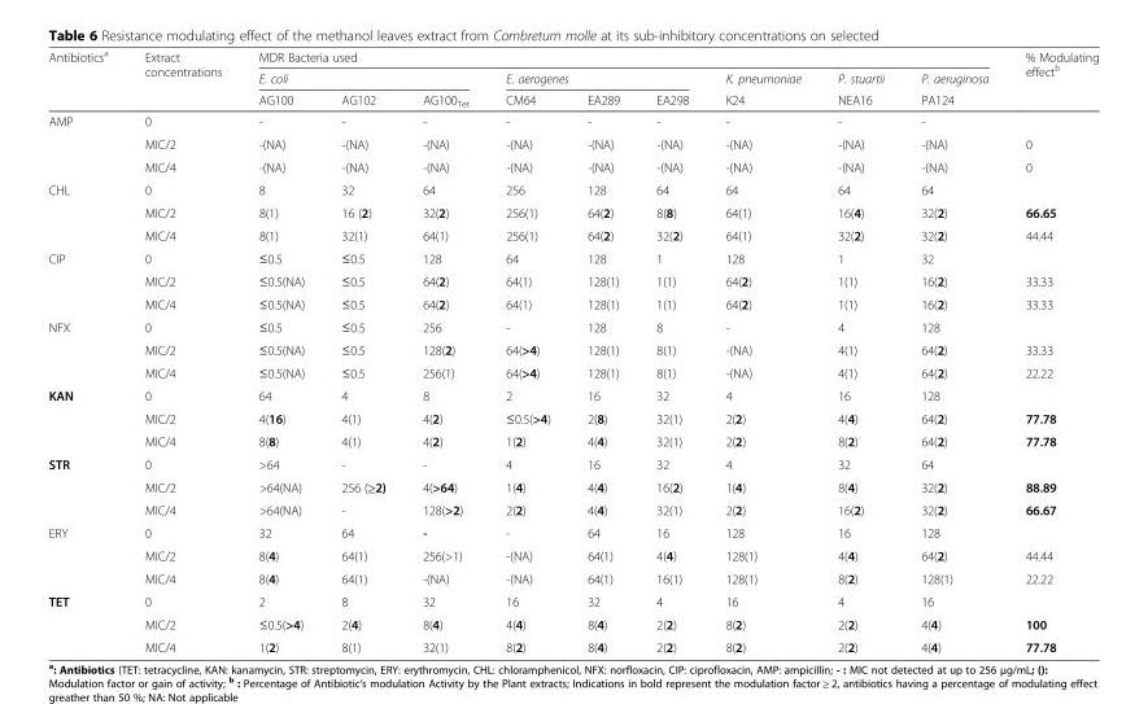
<table><thead><tr><td rowspan="3">Antibiotics<sup>a</sup></td><td rowspan="3">Extract concentrations</td><td colspan="9">MDR Bacteria used</td><td rowspan="3">% Modulating effect<sup>b</sup></td></tr><tr><td colspan="3">E. coli</td><td colspan="3">E. aerogenes</td><td rowspan="2">K. pneumoniae K24</td><td rowspan="2">P. stuartii NEA16</td><td rowspan="2">P. aeruginosa PA124</td></tr><tr><td>AG100</td><td>AG102</td><td>AG100<sub>Tet</sub></td><td>CM64</td><td>EA289</td><td>EA298</td></tr></thead><tbody><tr><td rowspan="3">AMP</td><td>0</td><td>-</td><td>-</td><td>-</td><td>-</td><td>-</td><td>-</td><td>-</td><td>-</td><td>-</td><td></td></tr><tr><td>MIC/2</td><td>-(NA)</td><td>-(NA)</td><td>-(NA)</td><td>-(NA)</td><td>-(NA)</td><td>-(NA)</td><td>-(NA)</td><td>-(NA)</td><td>-(NA)</td><td>0</td></tr><tr><td>MIC/4</td><td>-(NA)</td><td>-(NA)</td><td>-(NA)</td><td>-(NA)</td><td>-(NA)</td><td>-(NA)</td><td>-(NA)</td><td>-(NA)</td><td>-(NA)</td><td>0</td></tr><tr><td rowspan="3">CHL</td><td>0</td><td>8</td><td>32</td><td>64</td><td>256</td><td>128</td><td>64</td><td>64</td><td>64</td><td>64</td><td></td></tr><tr><td>MIC/2</td><td>8(1)</td><td>16 (2)</td><td>32(2)</td><td>256(1)</td><td>64(2)</td><td>8(8)</td><td>64(1)</td><td>16(4)</td><td>32(2)</td><td>66.65</td></tr><tr><td>MIC/4</td><td>8(1)</td><td>32(1)</td><td>64(1)</td><td>256(1)</td><td>64(2)</td><td>32(2)</td><td>64(1)</td><td>32(2)</td><td>32(2)</td><td>44.44</td></tr><tr><td rowspan="3">CIP</td><td>0</td><td>≤0.5</td><td>≤0.5</td><td>128</td><td>64</td><td>128</td><td>1</td><td>128</td><td>1</td><td>32</td><td></td></tr><tr><td>MIC/2</td><td>≤0.5(NA)</td><td>≤0.5</td><td>64(2)</td><td>64(1)</td><td>128(1)</td><td>1(1)</td><td>64(2)</td><td>1(1)</td><td>16(2)</td><td>33.33</td></tr><tr><td>MIC/4</td><td>≤0.5(NA)</td><td>≤0.5</td><td>64(2)</td><td>64(1)</td><td>128(1)</td><td>1(1)</td><td>64(2)</td><td>1(1)</td><td>16(2)</td><td>33.33</td></tr><tr><td rowspan="3">NFX</td><td>0</td><td>≤0.5</td><td>≤0.5</td><td>256</td><td>-</td><td>128</td><td>8</td><td>-</td><td>4</td><td>128</td><td></td></tr><tr><td>MIC/2</td><td>≤0.5(NA)</td><td>≤0.5</td><td>128(2)</td><td>64(&gt;4)</td><td>128(1)</td><td>8(1)</td><td>-(NA)</td><td>4(1)</td><td>64(2)</td><td>33.33</td></tr><tr><td>MIC/4</td><td>≤0.5(NA)</td><td>≤0.5</td><td>256(1)</td><td>64(&gt;4)</td><td>128(1)</td><td>8(1)</td><td>-(NA)</td><td>4(1)</td><td>64(2)</td><td>22.22</td></tr><tr><td rowspan="3">KAN</td><td>0</td><td>64</td><td>4</td><td>8</td><td>2</td><td>16</td><td>32</td><td>4</td><td>16</td><td>128</td><td></td></tr><tr><td>MIC/2</td><td>4(16)</td><td>4(1)</td><td>4(2)</td><td>≤0.5(&gt;4)</td><td>2(8)</td><td>32(1)</td><td>2(2)</td><td>4(4)</td><td>64(2)</td><td>77.78</td></tr><tr><td>MIC/4</td><td>8(8)</td><td>4(1)</td><td>4(2)</td><td>1(2)</td><td>4(4)</td><td>32(1)</td><td>2(2)</td><td>8(2)</td><td>64(2)</td><td>77.78</td></tr><tr><td rowspan="3">STR</td><td>0</td><td>&gt;64</td><td>-</td><td>-</td><td>4</td><td>16</td><td>32</td><td>4</td><td>32</td><td>64</td><td></td></tr><tr><td>MIC/2</td><td>&gt;64(NA)</td><td>256 (≥2)</td><td>4(&gt;64)</td><td>1(4)</td><td>4(4)</td><td>16(2)</td><td>1(4)</td><td>8(4)</td><td>32(2)</td><td>88.89</td></tr><tr><td>MIC/4</td><td>&gt;64(NA)</td><td>-</td><td>128(&gt;2)</td><td>2(2)</td><td>4(4)</td><td>32(1)</td><td>2(2)</td><td>16(2)</td><td>32(2)</td><td>66.67</td></tr><tr><td rowspan="3">ERY</td><td>0</td><td>32</td><td>64</td><td>-</td><td>-</td><td>64</td><td>16</td><td>128</td><td>16</td><td>128</td><td></td></tr><tr><td>MIC/2</td><td>8(4)</td><td>64(1)</td><td>256(&gt;1)</td><td>-(NA)</td><td>64(1)</td><td>4(4)</td><td>128(1)</td><td>4(4)</td><td>64(2)</td><td>44.44</td></tr><tr><td>MIC/4</td><td>8(4)</td><td>64(1)</td><td>-(NA)</td><td>-(NA)</td><td>64(1)</td><td>16(1)</td><td>128(1)</td><td>8(2)</td><td>128(1)</td><td>22.22</td></tr><tr><td rowspan="3">TET</td><td>0</td><td>2</td><td>8</td><td>32</td><td>16</td><td>32</td><td>4</td><td>16</td><td>4</td><td>16</td><td></td></tr><tr><td>MIC/2</td><td>≤0.5(&gt;4)</td><td>2(4)</td><td>8(4)</td><td>4(4)</td><td>8(4)</td><td>2(2)</td><td>8(2)</td><td>2(2)</td><td>4(4)</td><td>100</td></tr><tr><td>MIC/4</td><td>1(2)</td><td>8(1)</td><td>32(1)</td><td>8(2)</td><td>8(4)</td><td>2(2)</td><td>8(2)</td><td>2(2)</td><td>4(4)</td><td>77.78</td></tr></tbody></table>